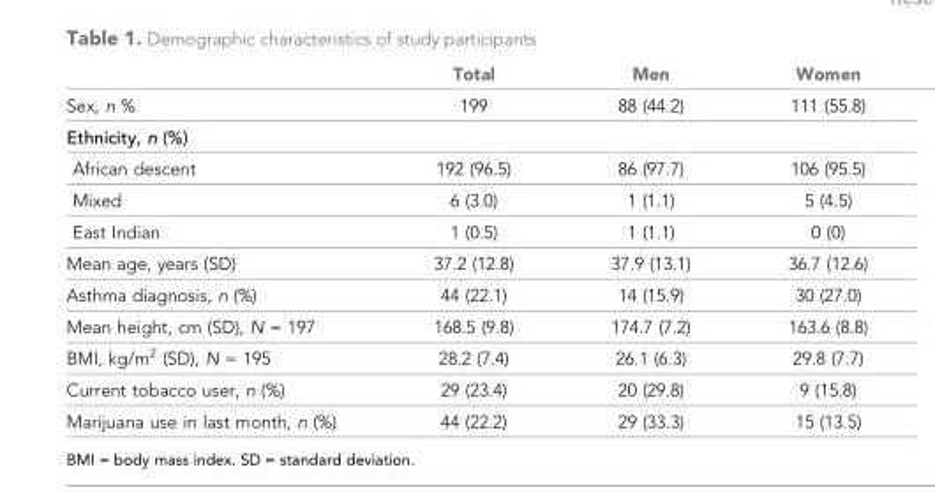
<table><thead><tr><td></td><td>Total</td><td>Men</td><td>Women</td></tr></thead><tbody><tr><td>Sex, n %</td><td>199</td><td>88 (44.2)</td><td>111 (55.8)</td></tr><tr><td colspan="4">Ethnicity, n (%)</td></tr><tr><td>African descent</td><td>192 (96.5)</td><td>86 (97.7)</td><td>106 (95.5)</td></tr><tr><td>Mixed</td><td>6 (3.0)</td><td>1 (1.1)</td><td>5 (4.5)</td></tr><tr><td>East Indian</td><td>1 (0.5)</td><td>1 (1.1)</td><td>0 (0)</td></tr><tr><td>Mean age, years (SD)</td><td>37.2 (12.8)</td><td>37.9 (13.1)</td><td>36.7 (12.6)</td></tr><tr><td>Asthma diagnosis, n (%)</td><td>44 (22.1)</td><td>14 (15.9)</td><td>30 (27.0)</td></tr><tr><td>Mean height, cm (SD), N = 197</td><td>168.5 (9.8)</td><td>174.7 (7.2)</td><td>163.6 (8.8)</td></tr><tr><td>BMI, kg/m<sup>2</sup> (SD), N = 195</td><td>28.2 (7.4)</td><td>26.1 (6.3)</td><td>29.8 (7.7)</td></tr><tr><td>Current tobacco user, n (%)</td><td>29 (23.4)</td><td>20 (29.8)</td><td>9 (15.8)</td></tr><tr><td>Marijuana use in last month, n (%)</td><td>44 (22.2)</td><td>29 (33.3)</td><td>15 (13.5)</td></tr></tbody></table>